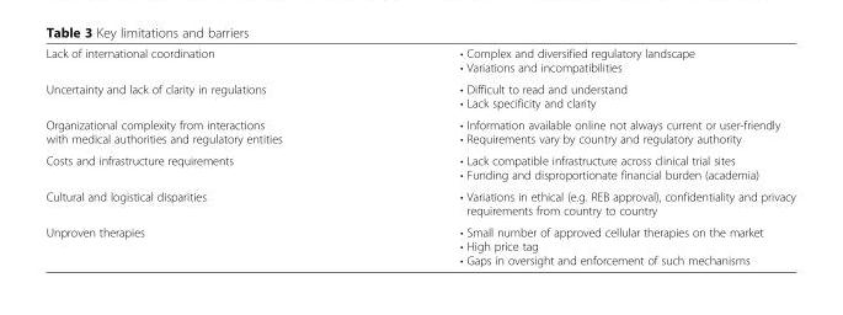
<table><tbody><tr><td>Lack of international coordination</td><td>• Complex and diversified regulatory landscape • Variations and incompatibilities</td></tr><tr><td>Uncertainty and lack of clarity in regulations</td><td>• Difficult to read and understand • Lack specificity and clarity</td></tr><tr><td>Organizational complexity from interactions with medical authorities and regulatory entities</td><td>• Information available online not always current or user-friendly • Requirements vary by country and regulatory authority</td></tr><tr><td>Costs and infrastructure requirements</td><td>• Lack compatible infrastructure across clinical trial sites • Funding and disproportionate financial burden (academia)</td></tr><tr><td>Cultural and logistical disparities</td><td>• Variations in ethical (e.g. REB approval), confidentiality and privacy requirements from country to country</td></tr><tr><td>Unproven therapies</td><td>• Small number of approved cellular therapies on the market • High price tag • Gaps in oversight and enforcement of such mechanisms</td></tr></tbody></table>